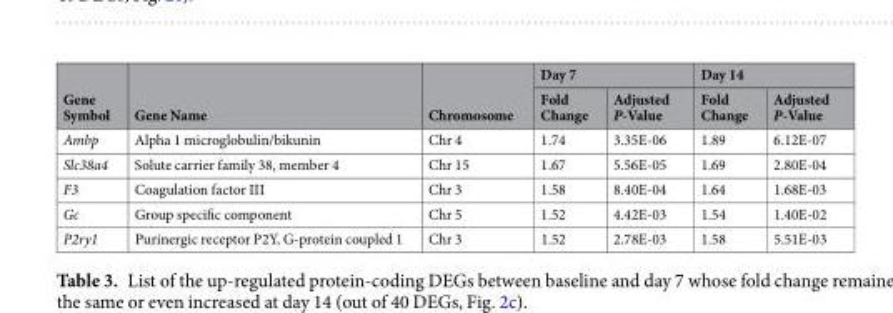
<table><thead><tr><td rowspan="2">Gene Symbol</td><td rowspan="2">Gene Name</td><td rowspan="2">Chromosome</td><td colspan="2">Day 7</td><td colspan="2">Day 14</td></tr><tr><td>Fold Change</td><td>Adjusted P-Value</td><td>Fold Change</td><td>Adjusted P-Value</td></tr></thead><tbody><tr><td>Ambp</td><td>Alpha 1 microglobulin/bikunin</td><td>Chr 4</td><td>1.74</td><td>3.35E-06</td><td>1.89</td><td>6.12E-07</td></tr><tr><td>Slc38a4</td><td>Solute carrier family 38, member 4</td><td>Chr 15</td><td>1.67</td><td>5.56E-05</td><td>1.69</td><td>2.80E-04</td></tr><tr><td>F3</td><td>Coagulation factor III</td><td>Chr 3</td><td>1.58</td><td>8.40E-04</td><td>1.64</td><td>1.68E-03</td></tr><tr><td>Gc</td><td>Group specific component</td><td>Chr 5</td><td>1.52</td><td>4.42E-03</td><td>1.54</td><td>1.40E-02</td></tr><tr><td>P2ry1</td><td>Purinergic receptor P2Y, G-protein coupled 1</td><td>Chr 3</td><td>1.52</td><td>2.78E-03</td><td>1.58</td><td>5.51E-03</td></tr></tbody></table>